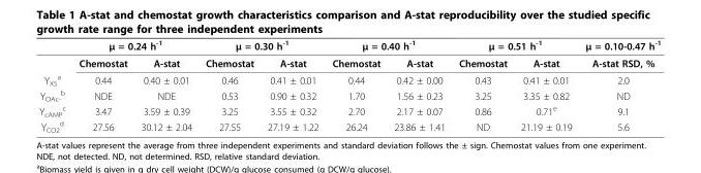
<table><thead><tr><td rowspan="2"></td><td colspan="2">μ = 0.24 h<sup>-1</sup></td><td colspan="2">μ = 0.30 h<sup>-1</sup></td><td colspan="2">μ = 0.40 h<sup>-1</sup></td><td colspan="2">μ = 0.51 h<sup>-1</sup></td><td rowspan="2">μ = 0.10-0.47 h<sup>-1</sup> A-stat RSD, %</td></tr><tr><td>Chemostat</td><td>A-stat</td><td>Chemostat</td><td>A-stat</td><td>Chemostat</td><td>A-stat</td><td>Chemostat</td><td>A-stat</td></tr></thead><tbody><tr><td>Y<sub>XS</sub> <sup>a</sup></td><td>0.44</td><td>0.40 ± 0.01</td><td>0.46</td><td>0.41 ± 0.01</td><td>0.44</td><td>0.42 ± 0.00</td><td>0.43</td><td>0.41 ± 0.01</td><td>2.0</td></tr><tr><td>Y<sub>OAc-</sub> <sup>b</sup></td><td>NDE</td><td>NDE</td><td>0.53</td><td>0.90 ± 0.32</td><td>1.70</td><td>1.56 ± 0.23</td><td>3.25</td><td>3.35 ± 0.82</td><td>ND</td></tr><tr><td>Y<sub>cAMP</sub> <sup>c</sup></td><td>3.47</td><td>3.59 ± 0.39</td><td>3.25</td><td>3.55 ± 0.32</td><td>2.70</td><td>2.17 ± 0.07</td><td>0.86</td><td>0.71<sup>e</sup></td><td>9.1</td></tr><tr><td>Y<sub>CO2</sub> <sup>d</sup></td><td>27.56</td><td>30.12 ± 2.04</td><td>27.55</td><td>27.19 ± 1.22</td><td>26.24</td><td>23.86 ± 1.41</td><td>ND</td><td>21.19 ± 0.19</td><td>5.6</td></tr></tbody></table>